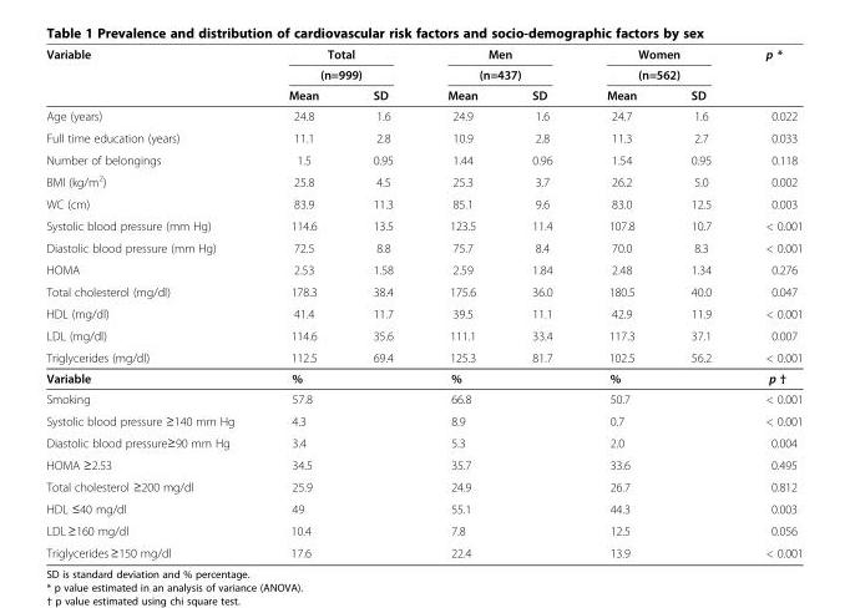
<table><thead><tr><td rowspan="3">Variable</td><td rowspan="2" colspan="2">Total (n=999)</td><td rowspan="2" colspan="2">Men (n=437)</td><td rowspan="2" colspan="2">Women (n=562)</td><td rowspan="3">p *</td></tr><tr></tr><tr><td>Mean</td><td>SD</td><td>Mean</td><td>SD</td><td>Mean</td><td>SD</td></tr></thead><tbody><tr><td>Age (years)</td><td>24.8</td><td>1.6</td><td>24.9</td><td>1.6</td><td>24.7</td><td>1.6</td><td>0.022</td></tr><tr><td>Full time education (years)</td><td>11.1</td><td>2.8</td><td>10.9</td><td>2.8</td><td>11.3</td><td>2.7</td><td>0.033</td></tr><tr><td>Number of belongings</td><td>1.5</td><td>0.95</td><td>1.44</td><td>0.96</td><td>1.54</td><td>0.95</td><td>0.118</td></tr><tr><td>BMI (kg/m<sup>2</sup>)</td><td>25.8</td><td>4.5</td><td>25.3</td><td>3.7</td><td>26.2</td><td>5.0</td><td>0.002</td></tr><tr><td>WC (cm)</td><td>83.9</td><td>11.3</td><td>85.1</td><td>9.6</td><td>83.0</td><td>12.5</td><td>0.003</td></tr><tr><td>Systolic blood pressure (mm Hg)</td><td>114.6</td><td>13.5</td><td>123.5</td><td>11.4</td><td>107.8</td><td>10.7</td><td>&lt; 0.001</td></tr><tr><td>Diastolic blood pressure (mm Hg)</td><td>72.5</td><td>8.8</td><td>75.7</td><td>8.4</td><td>70.0</td><td>8.3</td><td>&lt; 0.001</td></tr><tr><td>HOMA</td><td>2.53</td><td>1.58</td><td>2.59</td><td>1.84</td><td>2.48</td><td>1.34</td><td>0.276</td></tr><tr><td>Total cholesterol (mg/dl)</td><td>178.3</td><td>38.4</td><td>175.6</td><td>36.0</td><td>180.5</td><td>40.0</td><td>0.047</td></tr><tr><td>HDL (mg/dl)</td><td>41.4</td><td>11.7</td><td>39.5</td><td>11.1</td><td>42.9</td><td>11.9</td><td>&lt; 0.001</td></tr><tr><td>LDL (mg/dl)</td><td>114.6</td><td>35.6</td><td>111.1</td><td>33.4</td><td>117.3</td><td>37.1</td><td>0.007</td></tr><tr><td>Triglycerides (mg/dl)</td><td>112.5</td><td>69.4</td><td>125.3</td><td>81.7</td><td>102.5</td><td>56.2</td><td>&lt; 0.001</td></tr><tr><td>Variable</td><td colspan="2">%</td><td colspan="2">%</td><td colspan="2">%</td><td>p †</td></tr><tr><td>Smoking</td><td colspan="2">57.8</td><td colspan="2">66.8</td><td colspan="2">50.7</td><td>&lt; 0.001</td></tr><tr><td>Systolic blood pressure ≥140 mm Hg</td><td colspan="2">4.3</td><td colspan="2">8.9</td><td colspan="2">0.7</td><td>&lt; 0.001</td></tr><tr><td>Diastolic blood pressure≥90 mm Hg</td><td colspan="2">3.4</td><td colspan="2">5.3</td><td colspan="2">2.0</td><td>0.004</td></tr><tr><td>HOMA ≥2.53</td><td colspan="2">34.5</td><td colspan="2">35.7</td><td colspan="2">33.6</td><td>0.495</td></tr><tr><td>Total cholesterol ≥200 mg/dl</td><td colspan="2">25.9</td><td colspan="2">24.9</td><td colspan="2">26.7</td><td>0.812</td></tr><tr><td>HDL ≤40 mg/dl</td><td colspan="2">49</td><td colspan="2">55.1</td><td colspan="2">44.3</td><td>0.003</td></tr><tr><td>LDL ≥160 mg/dl</td><td colspan="2">10.4</td><td colspan="2">7.8</td><td colspan="2">12.5</td><td>0.056</td></tr><tr><td>Triglycerides ≥150 mg/dl</td><td colspan="2">17.6</td><td colspan="2">22.4</td><td colspan="2">13.9</td><td>&lt; 0.001</td></tr></tbody></table>